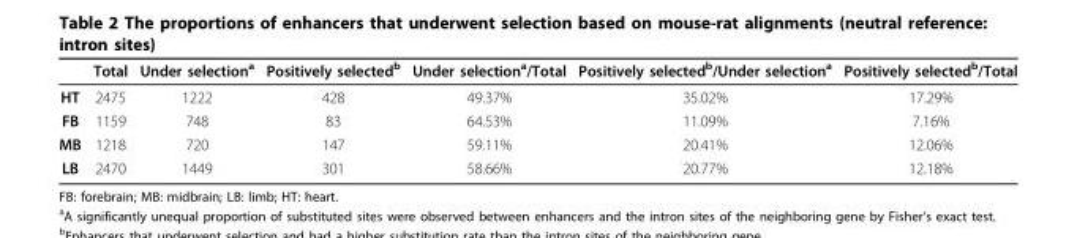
<table><thead><tr><td></td><td>Total</td><td>Under selection<sup>a</sup></td><td>Positively selected<sup>b</sup></td><td>Under selection<sup>a</sup>/Total</td><td>Positively selected<sup>b</sup>/Under selection<sup>a</sup></td><td>Positively selected<sup>b</sup>/Total</td></tr></thead><tbody><tr><td>HT</td><td>2475</td><td>1222</td><td>428</td><td>49.37%</td><td>35.02%</td><td>17.29%</td></tr><tr><td>FB</td><td>1159</td><td>748</td><td>83</td><td>64.53%</td><td>11.09%</td><td>7.16%</td></tr><tr><td>MB</td><td>1218</td><td>720</td><td>147</td><td>59.11%</td><td>20.41%</td><td>12.06%</td></tr><tr><td>LB</td><td>2470</td><td>1449</td><td>301</td><td>58.66%</td><td>20.77%</td><td>12.18%</td></tr></tbody></table>